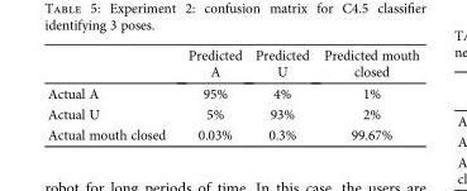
<table><thead><tr><td></td><td>Predicted A</td><td>Predicted U</td><td>Predicted mouth closed</td></tr></thead><tbody><tr><td>Actual A</td><td>95%</td><td>4%</td><td>1%</td></tr><tr><td>Actual U</td><td>5%</td><td>93%</td><td>2%</td></tr><tr><td>Actual mouth closed</td><td>0.03%</td><td>0.3%</td><td>99.67%</td></tr></tbody></table>